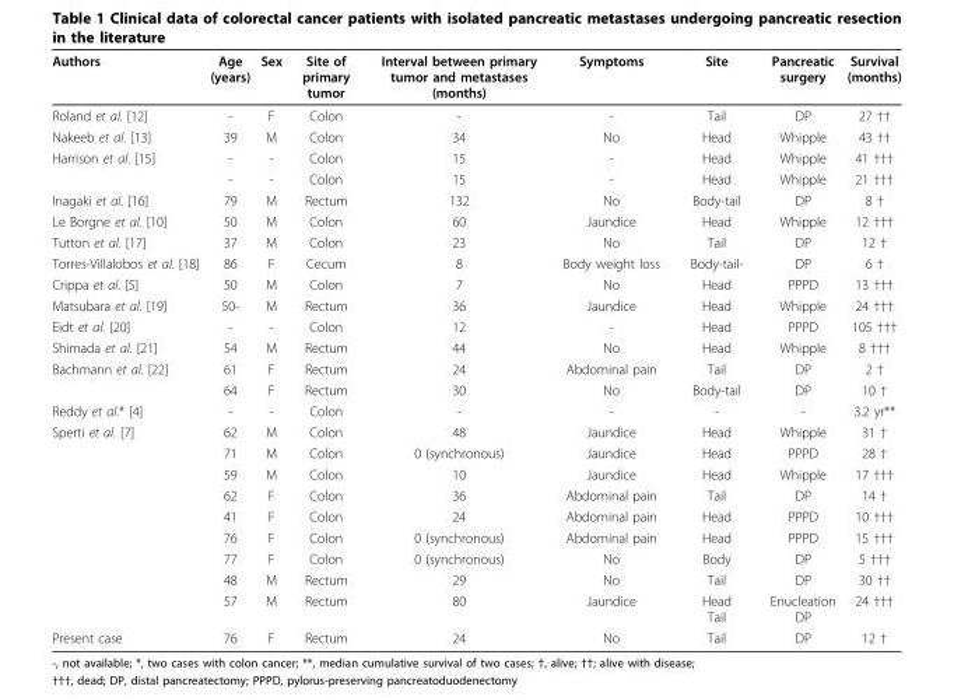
<table><thead><tr><td>Authors</td><td>Age (years)</td><td>Sex</td><td>Site of primary tumor</td><td>Interval between primary tumor and metastases (months)</td><td>Symptoms</td><td>Site</td><td>Pancreatic surgery</td><td>Survival (months)</td></tr></thead><tbody><tr><td>Roland et al. [12]</td><td>-</td><td>F</td><td>Colon</td><td>-</td><td>-</td><td>Tail</td><td>DP</td><td>27 ††</td></tr><tr><td>Nakeeb et al. [13]</td><td>39</td><td>M</td><td>Colon</td><td>34</td><td>No</td><td>Head</td><td>Whipple</td><td>43 ††</td></tr><tr><td rowspan="2">Harrison et al. [15]</td><td>-</td><td>-</td><td>Colon</td><td>15</td><td>-</td><td>Head</td><td>Whipple</td><td>41 †††</td></tr><tr><td>-</td><td>-</td><td>Colon</td><td>15</td><td>-</td><td>Head</td><td>Whipple</td><td>21 †††</td></tr><tr><td>Inagaki et al. [16]</td><td>79</td><td>M</td><td>Rectum</td><td>132</td><td>No</td><td>Body-tail</td><td>DP</td><td>8 †</td></tr><tr><td>Le Borgne et al. [10]</td><td>50</td><td>M</td><td>Colon</td><td>60</td><td>Jaundice</td><td>Head</td><td>Whipple</td><td>12 †††</td></tr><tr><td>Tutton et al. [17]</td><td>37</td><td>M</td><td>Colon</td><td>23</td><td>No</td><td>Tail</td><td>DP</td><td>12 †</td></tr><tr><td>Torres-Villalobos et al. [18]</td><td>86</td><td>F</td><td>Cecum</td><td>8</td><td>Body weight loss</td><td>Body-tail-</td><td>DP</td><td>6 †</td></tr><tr><td>Crippa et al. [5]</td><td>50</td><td>M</td><td>Colon</td><td>7</td><td>No</td><td>Head</td><td>PPPD</td><td>13 †††</td></tr><tr><td>Matsubara et al. [19]</td><td>50-</td><td>M</td><td>Rectum</td><td>36</td><td>Jaundice</td><td>Head</td><td>Whipple</td><td>24 †††</td></tr><tr><td>Eidt et al. [20]</td><td>-</td><td>-</td><td>Colon</td><td>12</td><td>-</td><td>Head</td><td>PPPD</td><td>105 †††</td></tr><tr><td>Shimada et al. [21]</td><td>54</td><td>M</td><td>Rectum</td><td>44</td><td>No</td><td>Head</td><td>Whipple</td><td>8 †††</td></tr><tr><td rowspan="2">Bachmann et al. [22]</td><td>61</td><td>F</td><td>Rectum</td><td>24</td><td>Abdominal pain</td><td>Tail</td><td>DP</td><td>2 †</td></tr><tr><td>64</td><td>F</td><td>Rectum</td><td>30</td><td>No</td><td>Body-tail</td><td>DP</td><td>10 †</td></tr><tr><td>Reddy et al.* [4]</td><td>-</td><td>-</td><td>Colon</td><td>-</td><td>-</td><td>-</td><td>-</td><td>3.2 yr**</td></tr><tr><td rowspan="9">Sperti et al. [7]</td><td>62</td><td>M</td><td>Colon</td><td>48</td><td>Jaundice</td><td>Head</td><td>Whipple</td><td>31 †</td></tr><tr><td>71</td><td>M</td><td>Colon</td><td>0 (synchronous)</td><td>Jaundice</td><td>Head</td><td>PPPD</td><td>28 †</td></tr><tr><td>59</td><td>M</td><td>Colon</td><td>10</td><td>Jaundice</td><td>Head</td><td>Whipple</td><td>17 †††</td></tr><tr><td>62</td><td>F</td><td>Colon</td><td>36</td><td>Abdominal pain</td><td>Tail</td><td>DP</td><td>14 †</td></tr><tr><td>41</td><td>F</td><td>Colon</td><td>24</td><td>Abdominal pain</td><td>Head</td><td>PPPD</td><td>10 †††</td></tr><tr><td>76</td><td>F</td><td>Colon</td><td>0 (synchronous)</td><td>Abdominal pain</td><td>Head</td><td>PPPD</td><td>15 †††</td></tr><tr><td>77</td><td>F</td><td>Colon</td><td>0 (synchronous)</td><td>No</td><td>Body</td><td>DP</td><td>5 †††</td></tr><tr><td>48</td><td>M</td><td>Rectum</td><td>29</td><td>No</td><td>Tail</td><td>DP</td><td>30 ††</td></tr><tr><td>57</td><td>M</td><td>Rectum</td><td>80</td><td>Jaundice</td><td>Head Tail</td><td>Enucleation DP</td><td>24 †††</td></tr><tr><td>Present case</td><td>76</td><td>F</td><td>Rectum</td><td>24</td><td>No</td><td>Tail</td><td>DP</td><td>12 †</td></tr></tbody></table>